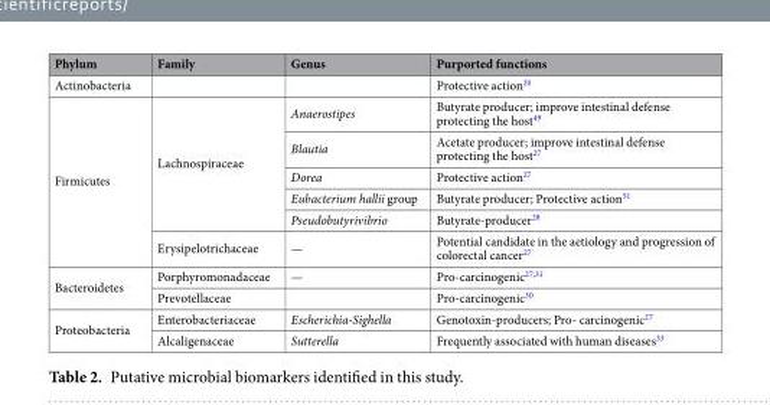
<table><thead><tr><td>Phylum</td><td>Family</td><td>Genus</td><td>Purported functions</td></tr></thead><tbody><tr><td>Actinobacteria</td><td></td><td></td><td>Protective action<sup>20</sup></td></tr><tr><td rowspan="6">Firmicutes</td><td rowspan="5">Lachnospiraceae</td><td>Anaerostipes</td><td>Butyrate producer; improve intestinal defense protecting the host<sup>49</sup></td></tr><tr><td>Blautia</td><td>Acetate producer; improve intestinal defense protecting the host<sup>27</sup></td></tr><tr><td>Dorea</td><td>Protective action<sup>27</sup></td></tr><tr><td>Eubacterium hallii group</td><td>Butyrate producer; Protective action<sup>51</sup></td></tr><tr><td>Pseudobutyrivibrio</td><td>Butyrate-producer<sup>28</sup></td></tr><tr><td>Erysipelotrichaceae</td><td>—</td><td>Potential candidate in the aetiology and progression of colorectal cancer<sup>27</sup></td></tr><tr><td rowspan="2">Bacteroidetes</td><td>Porphyromonadaceae</td><td>—</td><td>Pro-carcinogenic<sup>27,31</sup></td></tr><tr><td>Prevotellaceae</td><td></td><td>Pro-carcinogenic<sup>30</sup></td></tr><tr><td rowspan="2">Proteobacteria</td><td>Enterobacteriaceae</td><td>Escherichia-Sighella</td><td>Genotoxin-producers; Pro- carcinogenic<sup>27</sup></td></tr><tr><td>Alcaligenaceae</td><td>Sutterella</td><td>Frequently associated with human diseases<sup>33</sup></td></tr></tbody></table>